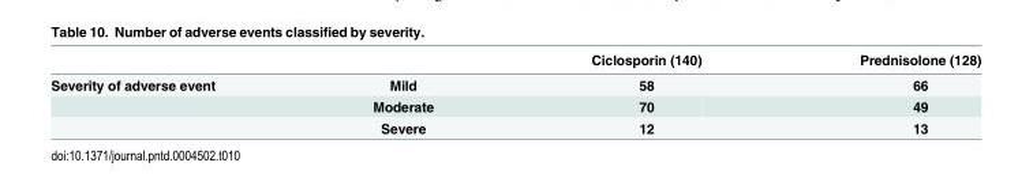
<table><thead><tr><td></td><td></td><td>Ciclosporin (140)</td><td>Prednisolone (128)</td></tr></thead><tbody><tr><td rowspan="3">Severity of adverse event</td><td>Mild</td><td>58</td><td>66</td></tr><tr><td>Moderate</td><td>70</td><td>49</td></tr><tr><td>Severe</td><td>12</td><td>13</td></tr></tbody></table>